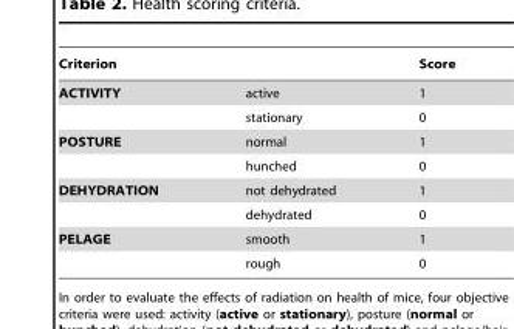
<table><thead><tr><td colspan="2">Criterion</td><td rowspan="2">Score 1</td></tr><tr><td>ACTIVITY</td><td>active</td></tr></thead><tbody><tr><td></td><td>stationary</td><td>0</td></tr><tr><td rowspan="2">POSTURE</td><td>normal</td><td>1</td></tr><tr><td>hunched</td><td>0</td></tr><tr><td rowspan="2">DEHYDRATION</td><td>not dehydrated</td><td>1</td></tr><tr><td>dehydrated</td><td>0</td></tr><tr><td rowspan="2">PELAGE</td><td>smooth</td><td>1</td></tr><tr><td>rough</td><td>0</td></tr></tbody></table>